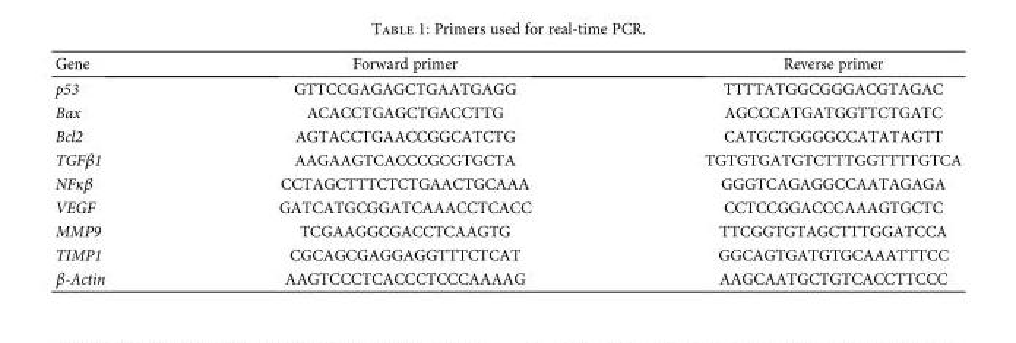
<table><thead><tr><td>Gene</td><td>Forward primer</td><td>Reverse primer</td></tr></thead><tbody><tr><td>p53</td><td>GTTCCGAGAGCTGAATGAGG</td><td>TTTTATGGCGGGACGTAGAC</td></tr><tr><td>Bax</td><td>ACACCTGAGCTGACCTTG</td><td>AGCCCATGATGGTTCTGATC</td></tr><tr><td>Bcl2</td><td>AGTACCTGAACCGGCATCTG</td><td>CATGCTGGGGCCATATAGTT</td></tr><tr><td>TGFβ1</td><td>AAGAAGTCACCCGCGTGCTA</td><td>TGTGTGATGTCTTTGGTTTTGTCA</td></tr><tr><td>NFκβ</td><td>CCTAGCTTTCTCTGAACTGCAAA</td><td>GGGTCAGAGGCCAATAGAGA</td></tr><tr><td>VEGF</td><td>GATCATGCGGATCAAACCTCACC</td><td>CCTCCGGACCCAAAGTGCTC</td></tr><tr><td>MMP9</td><td>TCGAAGGCGACCTCAAGTG</td><td>TTCGGTGTAGCTTTGGATCCA</td></tr><tr><td>TIMP1</td><td>CGCAGCGAGGAGGTTTCTCAT</td><td>GGCAGTGATGTGCAAATTTCC</td></tr><tr><td>β-Actin</td><td>AAGTCCCTCACCCTCCCAAAAG</td><td>AAGCAATGCTGTCACCTTCCC</td></tr></tbody></table>